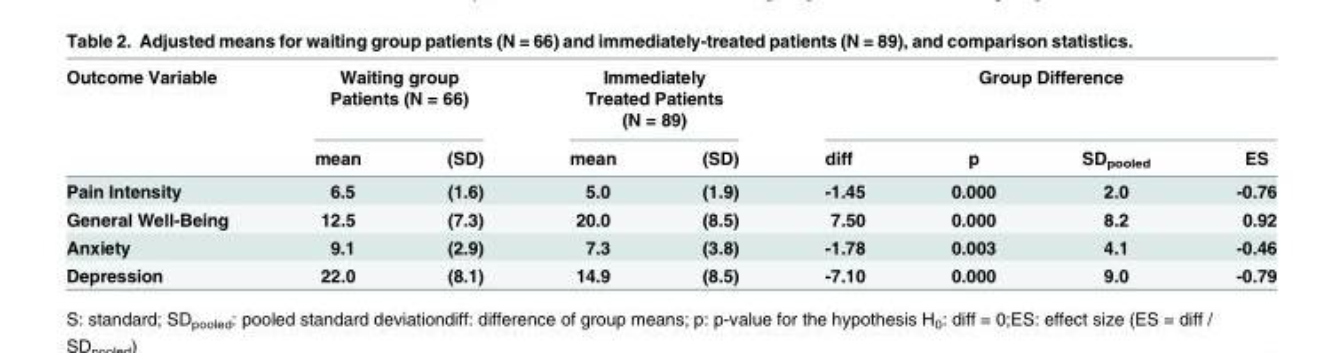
<table><thead><tr><td rowspan="2">Outcome Variable</td><td colspan="2">Waiting group Patients (N = 66)</td><td colspan="2">Immediately Treated Patients (N = 89)</td><td colspan="4">Group Difference</td></tr><tr><td>mean</td><td>(SD)</td><td>mean</td><td>(SD)</td><td>diff</td><td>p</td><td>SD<sub>pooled</sub></td><td>ES</td></tr></thead><tbody><tr><td>Pain Intensity</td><td>6.5</td><td>(1.6)</td><td>5.0</td><td>(1.9)</td><td>-1.45</td><td>0.000</td><td>2.0</td><td>-0.76</td></tr><tr><td>General Well-Being</td><td>12.5</td><td>(7.3)</td><td>20.0</td><td>(8.5)</td><td>7.50</td><td>0.000</td><td>8.2</td><td>0.92</td></tr><tr><td>Anxiety</td><td>9.1</td><td>(2.9)</td><td>7.3</td><td>(3.8)</td><td>-1.78</td><td>0.003</td><td>4.1</td><td>-0.46</td></tr><tr><td>Depression</td><td>22.0</td><td>(8.1)</td><td>14.9</td><td>(8.5)</td><td>-7.10</td><td>0.000</td><td>9.0</td><td>-0.79</td></tr></tbody></table>